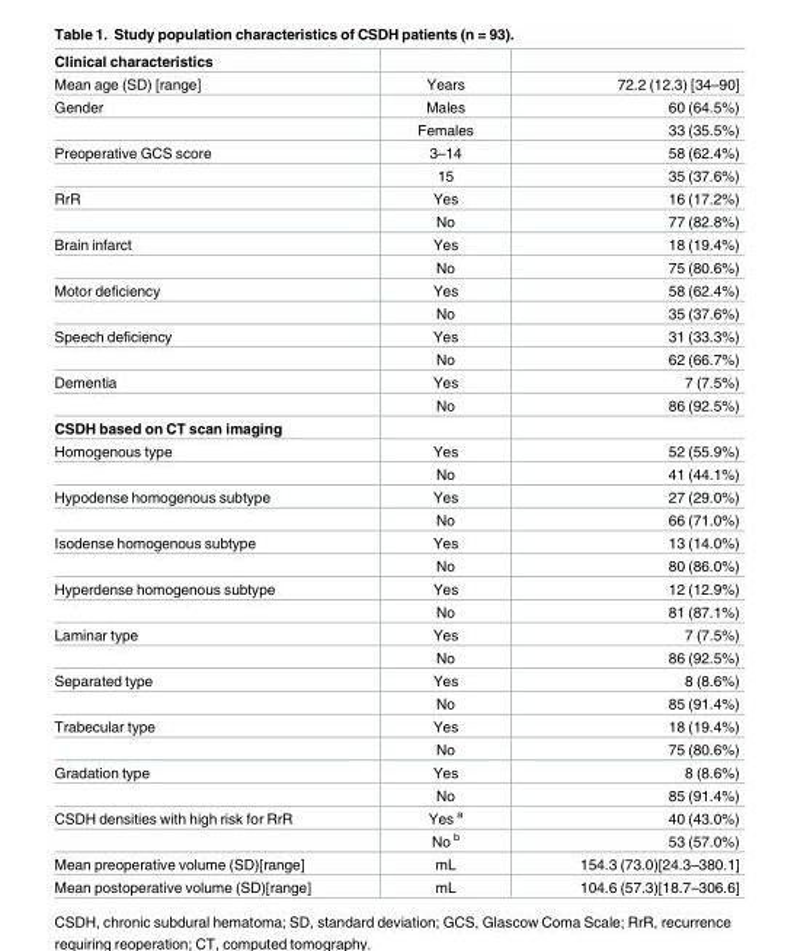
<table><thead><tr><td>Clinical characteristics</td><td></td><td></td></tr></thead><tbody><tr><td>Mean age (SD) [range]</td><td>Years</td><td>72.2 (12.3) [34–90]</td></tr><tr><td rowspan="2">Gender</td><td>Males</td><td>60 (64.5%)</td></tr><tr><td>Females</td><td>33 (35.5%)</td></tr><tr><td rowspan="2">Preoperative GCS score</td><td>3–14</td><td>58 (62.4%)</td></tr><tr><td>15</td><td>35 (37.6%)</td></tr><tr><td rowspan="2">RrR</td><td>Yes</td><td>16 (17.2%)</td></tr><tr><td>No</td><td>77 (82.8%)</td></tr><tr><td rowspan="2">Brain infarct</td><td>Yes</td><td>18 (19.4%)</td></tr><tr><td>No</td><td>75 (80.6%)</td></tr><tr><td rowspan="2">Motor deficiency</td><td>Yes</td><td>58 (62.4%)</td></tr><tr><td>No</td><td>35 (37.6%)</td></tr><tr><td rowspan="2">Speech deficiency</td><td>Yes</td><td>31 (33.3%)</td></tr><tr><td>No</td><td>62 (66.7%)</td></tr><tr><td rowspan="2">Dementia</td><td>Yes</td><td>7 (7.5%)</td></tr><tr><td>No</td><td>86 (92.5%)</td></tr><tr><td colspan="3">CSDH based on CT scan imaging</td></tr><tr><td rowspan="2">Homogenous type</td><td>Yes</td><td>52 (55.9%)</td></tr><tr><td>No</td><td>41 (44.1%)</td></tr><tr><td rowspan="2">Hypodense homogenous subtype</td><td>Yes</td><td>27 (29.0%)</td></tr><tr><td>No</td><td>66 (71.0%)</td></tr><tr><td rowspan="2">Isodense homogenous subtype</td><td>Yes</td><td>13 (14.0%)</td></tr><tr><td>No</td><td>80 (86.0%)</td></tr><tr><td rowspan="2">Hyperdense homogenous subtype</td><td>Yes</td><td>12 (12.9%)</td></tr><tr><td>No</td><td>81 (87.1%)</td></tr><tr><td rowspan="2">Laminar type</td><td>Yes</td><td>7 (7.5%)</td></tr><tr><td>No</td><td>86 (92.5%)</td></tr><tr><td rowspan="2">Separated type</td><td>Yes</td><td>8 (8.6%)</td></tr><tr><td>No</td><td>85 (91.4%)</td></tr><tr><td rowspan="2">Trabecular type</td><td>Yes</td><td>18 (19.4%)</td></tr><tr><td>No</td><td>75 (80.6%)</td></tr><tr><td rowspan="2">Gradation type</td><td>Yes</td><td>8 (8.6%)</td></tr><tr><td>No</td><td>85 (91.4%)</td></tr><tr><td rowspan="2">CSDH densities with high risk for RrR</td><td>Yes <sup>a</sup></td><td>40 (43.0%)</td></tr><tr><td>No <sup>b</sup></td><td>53 (57.0%)</td></tr><tr><td>Mean preoperative volume (SD)[range]</td><td>mL</td><td>154.3 (73.0)[24.3–380.1]</td></tr><tr><td>Mean postoperative volume (SD)[range]</td><td>mL</td><td>104.6 (57.3)[18.7–306.6]</td></tr></tbody></table>